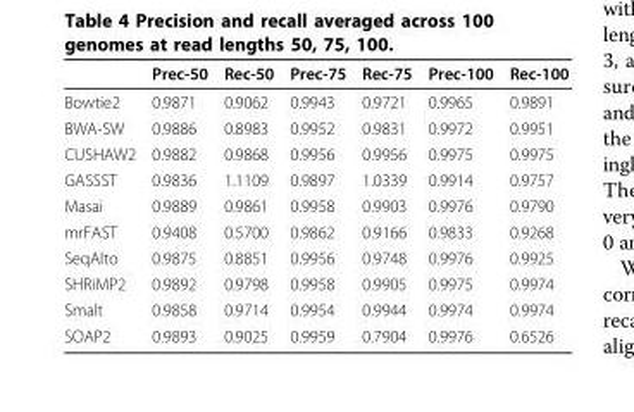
<table><thead><tr><td></td><td>Prec-50</td><td>Rec-50</td><td>Prec-75</td><td>Rec-75</td><td>Prec-100</td><td>Rec-100</td></tr></thead><tbody><tr><td>Bowtie2</td><td>0.9871</td><td>0.9062</td><td>0.9943</td><td>0.9721</td><td>0.9965</td><td>0.9891</td></tr><tr><td>BWA-SW</td><td>0.9886</td><td>0.8983</td><td>0.9952</td><td>0.9831</td><td>0.9972</td><td>0.9951</td></tr><tr><td>CUSHAW2</td><td>0.9882</td><td>0.9868</td><td>0.9956</td><td>0.9956</td><td>0.9975</td><td>0.9975</td></tr><tr><td>GASSST</td><td>0.9836</td><td>1.1109</td><td>0.9897</td><td>1.0339</td><td>0.9914</td><td>0.9757</td></tr><tr><td>Masai</td><td>0.9889</td><td>0.9861</td><td>0.9958</td><td>0.9903</td><td>0.9976</td><td>0.9790</td></tr><tr><td>mrFAST</td><td>0.9408</td><td>0.5700</td><td>0.9862</td><td>0.9166</td><td>0.9833</td><td>0.9268</td></tr><tr><td>SeqAlto</td><td>0.9875</td><td>0.8851</td><td>0.9956</td><td>0.9748</td><td>0.9976</td><td>0.9925</td></tr><tr><td>SHRiMP2</td><td>0.9892</td><td>0.9798</td><td>0.9958</td><td>0.9905</td><td>0.9975</td><td>0.9974</td></tr><tr><td>Smalt</td><td>0.9858</td><td>0.9714</td><td>0.9954</td><td>0.9944</td><td>0.9974</td><td>0.9974</td></tr><tr><td>SOAP2</td><td>0.9893</td><td>0.9025</td><td>0.9959</td><td>0.7904</td><td>0.9976</td><td>0.6526</td></tr></tbody></table>